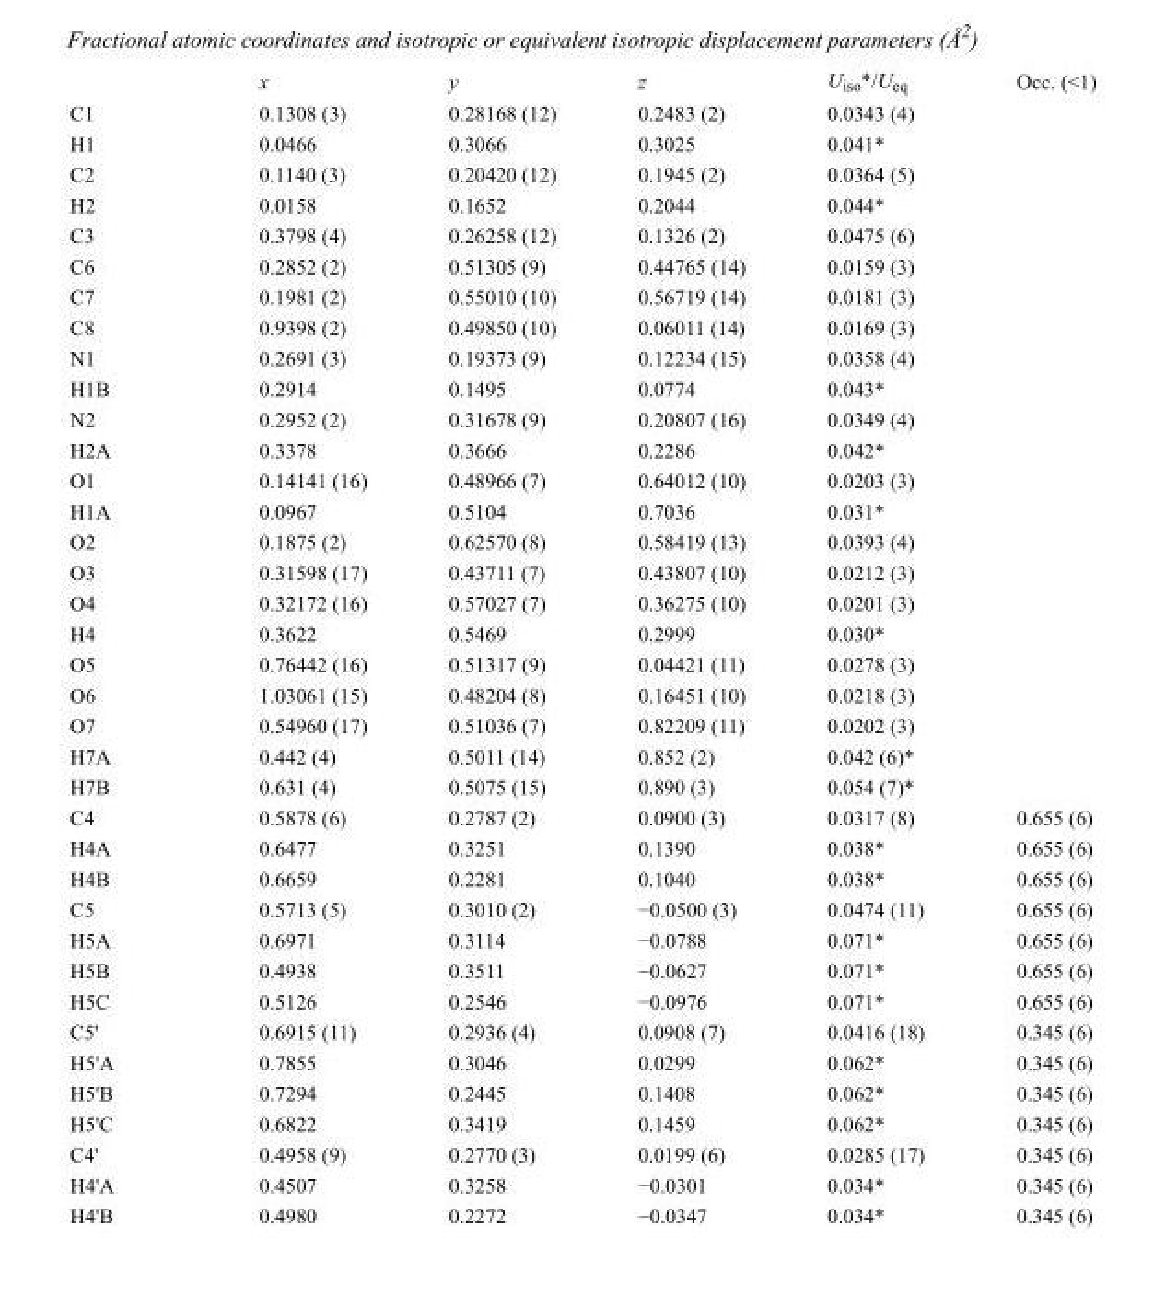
<table><thead><tr><td></td><td>x</td><td>y</td><td>z</td><td>U<sub>iso</sub>*/U<sub>eq</sub></td><td>Occ. (&lt;1)</td></tr></thead><tbody><tr><td>C1</td><td>0.1308 (3)</td><td>0.28168 (12)</td><td>0.2483 (2)</td><td>0.0343 (4)</td><td></td></tr><tr><td>H1</td><td>0.0466</td><td>0.3066</td><td>0.3025</td><td>0.041*</td><td></td></tr><tr><td>C2</td><td>0.1140 (3)</td><td>0.20420 (12)</td><td>0.1945 (2)</td><td>0.0364 (5)</td><td></td></tr><tr><td>H2</td><td>0.0158</td><td>0.1652</td><td>0.2044</td><td>0.044*</td><td></td></tr><tr><td>C3</td><td>0.3798 (4)</td><td>0.26258 (12)</td><td>0.1326 (2)</td><td>0.0475 (6)</td><td></td></tr><tr><td>C6</td><td>0.2852 (2)</td><td>0.51305 (9)</td><td>0.44765 (14)</td><td>0.0159 (3)</td><td></td></tr><tr><td>C7</td><td>0.1981 (2)</td><td>0.55010 (10)</td><td>0.56719 (14)</td><td>0.0181 (3)</td><td></td></tr><tr><td>C8</td><td>0.9398 (2)</td><td>0.49850 (10)</td><td>0.06011 (14)</td><td>0.0169 (3)</td><td></td></tr><tr><td>N1</td><td>0.2691 (3)</td><td>0.19373 (9)</td><td>0.12234 (15)</td><td>0.0358 (4)</td><td></td></tr><tr><td>H1B</td><td>0.2914</td><td>0.1495</td><td>0.0774</td><td>0.043*</td><td></td></tr><tr><td>N2</td><td>0.2952 (2)</td><td>0.31678 (9)</td><td>0.20807 (16)</td><td>0.0349 (4)</td><td></td></tr><tr><td>H2A</td><td>0.3378</td><td>0.3666</td><td>0.2286</td><td>0.042*</td><td></td></tr><tr><td>O1</td><td>0.14141 (16)</td><td>0.48966 (7)</td><td>0.64012 (10)</td><td>0.0203 (3)</td><td></td></tr><tr><td>H1A</td><td>0.0967</td><td>0.5104</td><td>0.7036</td><td>0.031*</td><td></td></tr><tr><td>O2</td><td>0.1875 (2)</td><td>0.62570 (8)</td><td>0.58419 (13)</td><td>0.0393 (4)</td><td></td></tr><tr><td>O3</td><td>0.31598 (17)</td><td>0.43711 (7)</td><td>0.43807 (10)</td><td>0.0212 (3)</td><td></td></tr><tr><td>O4</td><td>0.32172 (16)</td><td>0.57027 (7)</td><td>0.36275 (10)</td><td>0.0201 (3)</td><td></td></tr><tr><td>H4</td><td>0.3622</td><td>0.5469</td><td>0.2999</td><td>0.030*</td><td></td></tr><tr><td>O5</td><td>0.76442 (16)</td><td>0.51317 (9)</td><td>0.04421 (11)</td><td>0.0278 (3)</td><td></td></tr><tr><td>O6</td><td>1.03061 (15)</td><td>0.48204 (8)</td><td>0.16451 (10)</td><td>0.0218 (3)</td><td></td></tr><tr><td>O7</td><td>0.54960 (17)</td><td>0.51036 (7)</td><td>0.82209 (11)</td><td>0.0202 (3)</td><td></td></tr><tr><td>H7A</td><td>0.442 (4)</td><td>0.5011 (14)</td><td>0.852 (2)</td><td>0.042 (6)*</td><td></td></tr><tr><td>H7B</td><td>0.631 (4)</td><td>0.5075 (15)</td><td>0.890 (3)</td><td>0.054 (7)*</td><td></td></tr><tr><td>C4</td><td>0.5878 (6)</td><td>0.2787 (2)</td><td>0.0900 (3)</td><td>0.0317 (8)</td><td>0.655 (6)</td></tr><tr><td>H4A</td><td>0.6477</td><td>0.3251</td><td>0.1390</td><td>0.038*</td><td>0.655 (6)</td></tr><tr><td>H4B</td><td>0.6659</td><td>0.2281</td><td>0.1040</td><td>0.038*</td><td>0.655 (6)</td></tr><tr><td>C5</td><td>0.5713 (5)</td><td>0.3010 (2)</td><td>−0.0500 (3)</td><td>0.0474 (11)</td><td>0.655 (6)</td></tr><tr><td>H5A</td><td>0.6971</td><td>0.3114</td><td>−0.0788</td><td>0.071*</td><td>0.655 (6)</td></tr><tr><td>H5B</td><td>0.4938</td><td>0.3511</td><td>−0.0627</td><td>0.071*</td><td>0.655 (6)</td></tr><tr><td>H5C</td><td>0.5126</td><td>0.2546</td><td>−0.0976</td><td>0.071*</td><td>0.655 (6)</td></tr><tr><td>C5&#x27;</td><td>0.6915 (11)</td><td>0.2936 (4)</td><td>0.0908 (7)</td><td>0.0416 (18)</td><td>0.345 (6)</td></tr><tr><td>H5&#x27;A</td><td>0.7855</td><td>0.3046</td><td>0.0299</td><td>0.062*</td><td>0.345 (6)</td></tr><tr><td>H5&#x27;B</td><td>0.7294</td><td>0.2445</td><td>0.1408</td><td>0.062*</td><td>0.345 (6)</td></tr><tr><td>H5&#x27;C</td><td>0.6822</td><td>0.3419</td><td>0.1459</td><td>0.062*</td><td>0.345 (6)</td></tr><tr><td>C4&#x27;</td><td>0.4958 (9)</td><td>0.2770 (3)</td><td>0.0199 (6)</td><td>0.0285 (17)</td><td>0.345 (6)</td></tr><tr><td>H4&#x27;A</td><td>0.4507</td><td>0.3258</td><td>−0.0301</td><td>0.034*</td><td>0.345 (6)</td></tr><tr><td>H4&#x27;B</td><td>0.4980</td><td>0.2272</td><td>−0.0347</td><td>0.034*</td><td>0.345 (6)</td></tr></tbody></table>